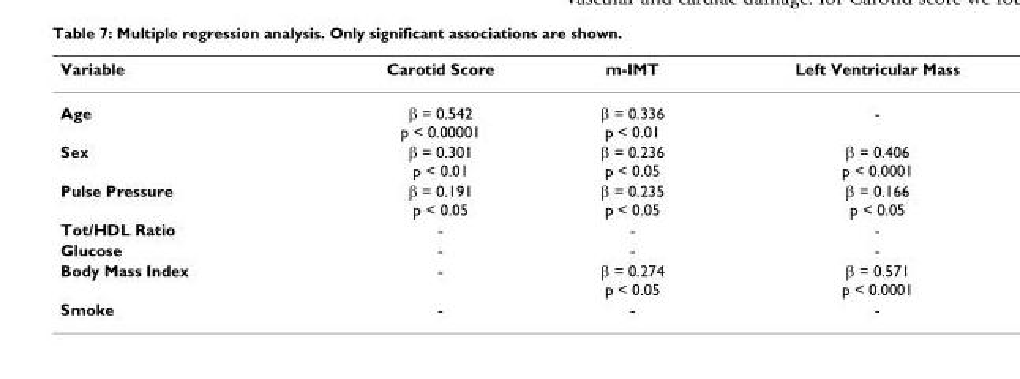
<table><thead><tr><td>Variable</td><td>Carotid Score</td><td>m-IMT</td><td>Left Ventricular Mass</td></tr></thead><tbody><tr><td>Age</td><td>β = 0.542 p &lt; 0.00001</td><td>β = 0.336 p &lt; 0.01</td><td>-</td></tr><tr><td>Sex</td><td>β = 0.301 p &lt; 0.01</td><td>β = 0.236 p &lt; 0.05</td><td>β = 0.406 p &lt; 0.0001</td></tr><tr><td>Pulse Pressure</td><td>β = 0.191 p &lt; 0.05</td><td>β = 0.235 p &lt; 0.05</td><td>β = 0.166 p &lt; 0.05</td></tr><tr><td>Tot/HDL Ratio</td><td>-</td><td>-</td><td>-</td></tr><tr><td>Glucose</td><td>-</td><td>-</td><td>-</td></tr><tr><td>Body Mass Index</td><td>-</td><td>β = 0.274 p &lt; 0.05</td><td>β = 0.571 p &lt; 0.0001</td></tr><tr><td>Smoke</td><td>-</td><td>-</td><td>-</td></tr></tbody></table>